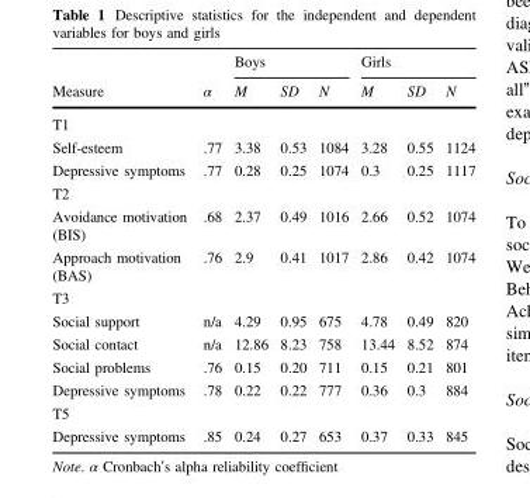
<table><thead><tr><td rowspan="2">Measure</td><td rowspan="2">α</td><td colspan="3">Boys</td><td colspan="3">Girls</td></tr><tr><td>M</td><td>SD</td><td>N</td><td>M</td><td>SD</td><td>N</td></tr></thead><tbody><tr><td colspan="8">T1</td></tr><tr><td>Self-esteem</td><td>.77</td><td>3.38</td><td>0.53</td><td>1084</td><td>3.28</td><td>0.55</td><td>1124</td></tr><tr><td>Depressive symptoms</td><td>.77</td><td>0.28</td><td>0.25</td><td>1074</td><td>0.3</td><td>0.25</td><td>1117</td></tr><tr><td colspan="8">T2</td></tr><tr><td>Avoidance motivation (BIS)</td><td>.68</td><td>2.37</td><td>0.49</td><td>1016</td><td>2.66</td><td>0.52</td><td>1074</td></tr><tr><td>Approach motivation (BAS)</td><td>.76</td><td>2.9</td><td>0.41</td><td>1017</td><td>2.86</td><td>0.42</td><td>1074</td></tr><tr><td colspan="8">T3</td></tr><tr><td>Social support</td><td>n/a</td><td>4.29</td><td>0.95</td><td>675</td><td>4.78</td><td>0.49</td><td>820</td></tr><tr><td>Social contact</td><td>n/a</td><td>12.86</td><td>8.23</td><td>758</td><td>13.44</td><td>8.52</td><td>874</td></tr><tr><td>Social problems</td><td>.76</td><td>0.15</td><td>0.20</td><td>711</td><td>0.15</td><td>0.21</td><td>801</td></tr><tr><td>Depressive symptoms</td><td>.78</td><td>0.22</td><td>0.22</td><td>777</td><td>0.36</td><td>0.3</td><td>884</td></tr><tr><td colspan="8">T5</td></tr><tr><td>Depressive symptoms</td><td>.85</td><td>0.24</td><td>0.27</td><td>653</td><td>0.37</td><td>0.33</td><td>845</td></tr></tbody></table>